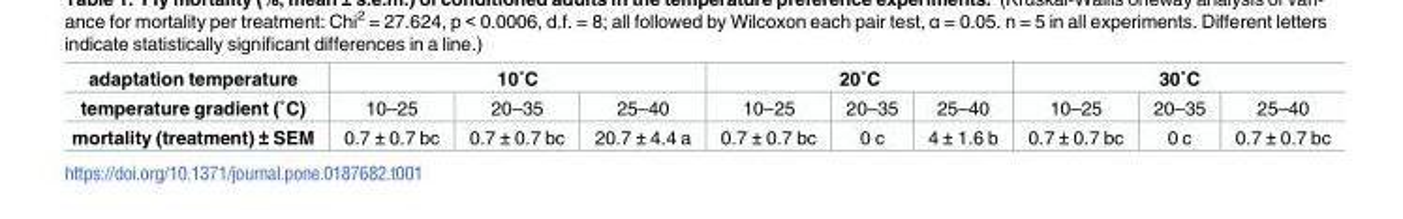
<table><thead><tr><td rowspan="2">adaptation temperature temperature gradient (˚C)</td><td colspan="3">10˚C</td><td colspan="3">20˚C</td><td colspan="3">30˚C</td></tr><tr><td>10–25</td><td>20–35</td><td>25–40</td><td>10–25</td><td>20–35</td><td>25–40</td><td>10–25</td><td>20–35</td><td>25–40</td></tr></thead><tbody><tr><td>mortality (treatment) ± SEM</td><td>0.7 ± 0.7 bc</td><td>0.7 ± 0.7 bc</td><td>20.7 ± 4.4 a</td><td>0.7 ± 0.7 bc</td><td>0 c</td><td>4 ± 1.6 b</td><td>0.7 ± 0.7 bc</td><td>0 c</td><td>0.7 ± 0.7 bc</td></tr></tbody></table>